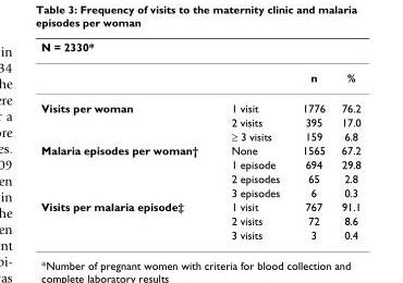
<table><thead><tr><td>N = 2330*</td><td></td><td></td><td></td></tr></thead><tbody><tr><td></td><td></td><td>n</td><td>%</td></tr><tr><td rowspan="3">Visits per woman</td><td>1 visit</td><td>1776</td><td>76.2</td></tr><tr><td>2 visits</td><td>395</td><td>17.0</td></tr><tr><td>≥ 3 visits</td><td>159</td><td>6.8</td></tr><tr><td rowspan="4">Malaria episodes per woman†</td><td>None</td><td>1565</td><td>67.2</td></tr><tr><td>1 episode</td><td>694</td><td>29.8</td></tr><tr><td>2 episodes</td><td>65</td><td>2.8</td></tr><tr><td>3 episodes</td><td>6</td><td>0.3</td></tr><tr><td rowspan="3">Visits per malaria episode‡</td><td>1 visit</td><td>767</td><td>91.1</td></tr><tr><td>2 visits</td><td>72</td><td>8.6</td></tr><tr><td>3 visits</td><td>3</td><td>0.4</td></tr></tbody></table>